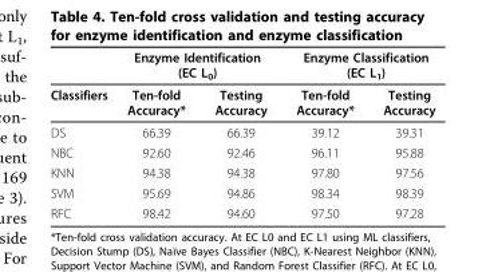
<table><thead><tr><td rowspan="2">Classifiers</td><td colspan="2">Enzyme Identification (EC L<sub>0</sub>)</td><td colspan="2">Enzyme Classification (EC L<sub>1</sub>)</td></tr><tr><td>Ten-fold Accuracy*</td><td>Testing Accuracy</td><td>Ten-fold Accuracy*</td><td>Testing Accuracy</td></tr></thead><tbody><tr><td>DS</td><td>66.39</td><td>66.39</td><td>39.12</td><td>39.31</td></tr><tr><td>NBC</td><td>92.60</td><td>92.46</td><td>96.11</td><td>95.88</td></tr><tr><td>KNN</td><td>94.38</td><td>94.38</td><td>97.80</td><td>97.56</td></tr><tr><td>SVM</td><td>95.69</td><td>94.86</td><td>98.34</td><td>98.39</td></tr><tr><td>RFC</td><td>98.42</td><td>94.60</td><td>97.50</td><td>97.28</td></tr></tbody></table>